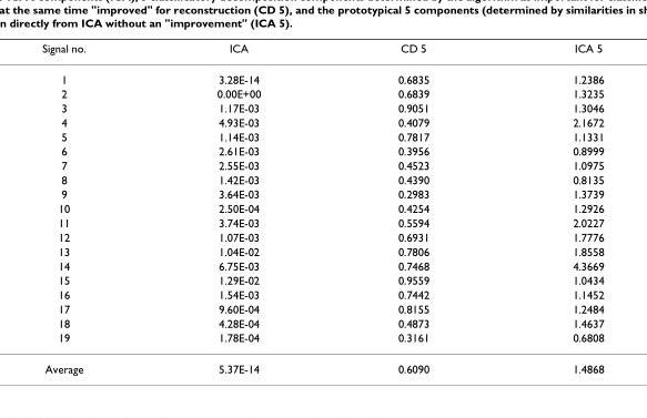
<table><thead><tr><td>Signal no.</td><td>ICA</td><td>CD 5</td><td>ICA 5</td></tr></thead><tbody><tr><td>1</td><td>3.28E-14</td><td>0.6835</td><td>1.2386</td></tr><tr><td>2</td><td>0.00E+00</td><td>0.6839</td><td>1.3235</td></tr><tr><td>3</td><td>1.17E-03</td><td>0.9051</td><td>1.3046</td></tr><tr><td>4</td><td>4.93E-03</td><td>0.4079</td><td>2.1672</td></tr><tr><td>5</td><td>1.14E-03</td><td>0.7817</td><td>1.1331</td></tr><tr><td>6</td><td>2.61E-03</td><td>0.3956</td><td>0.8999</td></tr><tr><td>7</td><td>2.55E-03</td><td>0.4523</td><td>1.0975</td></tr><tr><td>8</td><td>1.42E-03</td><td>0.4390</td><td>0.8135</td></tr><tr><td>9</td><td>3.64E-03</td><td>0.2983</td><td>1.3739</td></tr><tr><td>10</td><td>2.50E-04</td><td>0.4254</td><td>1.2926</td></tr><tr><td>11</td><td>3.74E-03</td><td>0.5594</td><td>2.0227</td></tr><tr><td>12</td><td>1.07E-03</td><td>0.6931</td><td>1.7776</td></tr><tr><td>13</td><td>1.04E-02</td><td>0.7806</td><td>1.8558</td></tr><tr><td>14</td><td>6.75E-03</td><td>0.7468</td><td>4.3669</td></tr><tr><td>15</td><td>1.29E-02</td><td>0.9559</td><td>1.0434</td></tr><tr><td>16</td><td>1.54E-03</td><td>0.7442</td><td>1.1452</td></tr><tr><td>17</td><td>9.60E-04</td><td>0.8155</td><td>1.2484</td></tr><tr><td>18</td><td>4.28E-04</td><td>0.4873</td><td>1.4637</td></tr><tr><td>19</td><td>1.78E-04</td><td>0.3161</td><td>0.6808</td></tr><tr><td>Average</td><td>5.37E-14</td><td>0.6090</td><td>1.4868</td></tr></tbody></table>